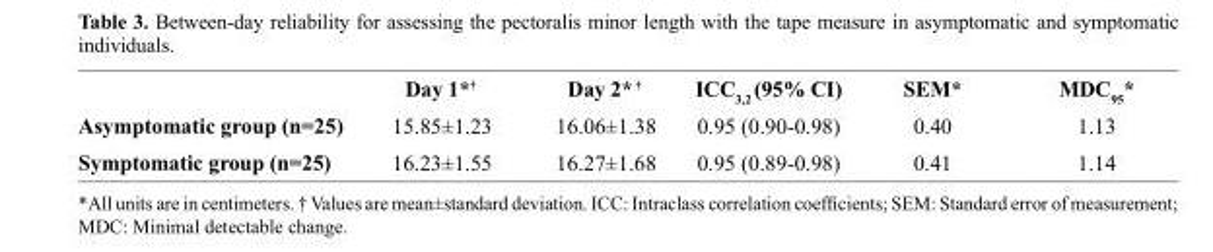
<table><thead><tr><td></td><td>Day 1*<sup>†</sup></td><td>Day 2* <sup>†</sup></td><td>ICC<sub>3,2</sub> (95% CI)</td><td>SEM*</td><td>MDC<sub>95</sub>*</td></tr></thead><tbody><tr><td>Asymptomatic group (n=25)</td><td>15.85±1.23</td><td>16.06±1.38</td><td>0.95 (0.90-0.98)</td><td>0.40</td><td>1.13</td></tr><tr><td>Symptomatic group (n=25)</td><td>16.23±1.55</td><td>16.27±1.68</td><td>0.95 (0.89-0.98)</td><td>0.41</td><td>1.14</td></tr></tbody></table>